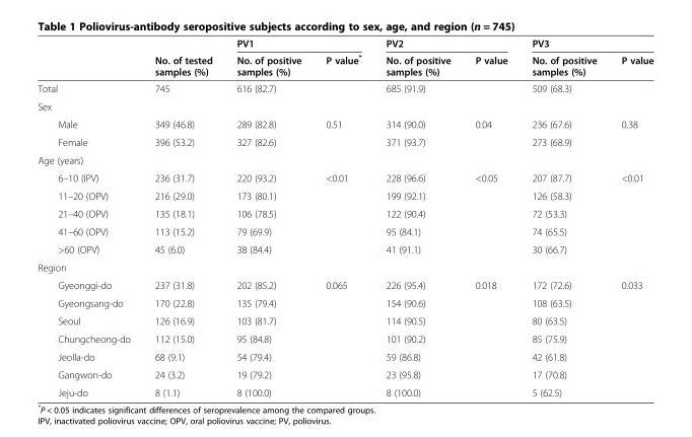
<table><thead><tr><td rowspan="2"></td><td rowspan="2">No. of tested samples (%)</td><td colspan="2">PV1</td><td colspan="2">PV2</td><td colspan="2">PV3</td></tr><tr><td>No. of positive samples (%)</td><td>P value*</td><td>No. of positive samples (%)</td><td>P value</td><td>No. of positive samples (%)</td><td>P value</td></tr></thead><tbody><tr><td>Total</td><td>745</td><td>616 (82.7)</td><td></td><td>685 (91.9)</td><td></td><td>509 (68.3)</td><td></td></tr><tr><td colspan="8">Sex</td></tr><tr><td>Male</td><td>349 (46.8)</td><td>289 (82.8)</td><td>0.51</td><td>314 (90.0)</td><td>0.04</td><td>236 (67.6)</td><td>0.38</td></tr><tr><td>Female</td><td>396 (53.2)</td><td>327 (82.6)</td><td></td><td>371 (93.7)</td><td></td><td>273 (68.9)</td><td></td></tr><tr><td colspan="8">Age (years)</td></tr><tr><td>6–10 (IPV)</td><td>236 (31.7)</td><td>220 (93.2)</td><td>&lt;0.01</td><td>228 (96.6)</td><td>&lt;0.05</td><td>207 (87.7)</td><td>&lt;0.01</td></tr><tr><td>11–20 (OPV)</td><td>216 (29.0)</td><td>173 (80.1)</td><td></td><td>199 (92.1)</td><td></td><td>126 (58.3)</td><td></td></tr><tr><td>21–40 (OPV)</td><td>135 (18.1)</td><td>106 (78.5)</td><td></td><td>122 (90.4)</td><td></td><td>72 (53.3)</td><td></td></tr><tr><td>41–60 (OPV)</td><td>113 (15.2)</td><td>79 (69.9)</td><td></td><td>95 (84.1)</td><td></td><td>74 (65.5)</td><td></td></tr><tr><td>&gt;60 (OPV)</td><td>45 (6.0)</td><td>38 (84.4)</td><td></td><td>41 (91.1)</td><td></td><td>30 (66.7)</td><td></td></tr><tr><td colspan="8">Region</td></tr><tr><td>Gyeonggi-do</td><td>237 (31.8)</td><td>202 (85.2)</td><td>0.065</td><td>226 (95.4)</td><td>0.018</td><td>172 (72.6)</td><td>0.033</td></tr><tr><td>Gyeongsang-do</td><td>170 (22.8)</td><td>135 (79.4)</td><td></td><td>154 (90.6)</td><td></td><td>108 (63.5)</td><td></td></tr><tr><td>Seoul</td><td>126 (16.9)</td><td>103 (81.7)</td><td></td><td>114 (90.5)</td><td></td><td>80 (63.5)</td><td></td></tr><tr><td>Chungcheong-do</td><td>112 (15.0)</td><td>95 (84.8)</td><td></td><td>101 (90.2)</td><td></td><td>85 (75.9)</td><td></td></tr><tr><td>Jeolla-do</td><td>68 (9.1)</td><td>54 (79.4)</td><td></td><td>59 (86.8)</td><td></td><td>42 (61.8)</td><td></td></tr><tr><td>Gangwon-do</td><td>24 (3.2)</td><td>19 (79.2)</td><td></td><td>23 (95.8)</td><td></td><td>17 (70.8)</td><td></td></tr><tr><td>Jeju-do</td><td>8 (1.1)</td><td>8 (100.0)</td><td></td><td>8 (100.0)</td><td></td><td>5 (62.5)</td><td></td></tr></tbody></table>